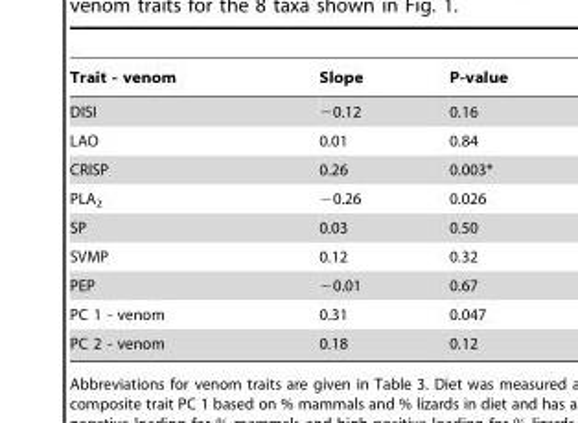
<table><thead><tr><td>Trait - venom</td><td>Slope</td><td>P-value</td></tr></thead><tbody><tr><td>DISI</td><td>−0.12</td><td>0.16</td></tr><tr><td>LAO</td><td>0.01</td><td>0.84</td></tr><tr><td>CRISP</td><td>0.26</td><td>0.003*</td></tr><tr><td>PLA<sub>2</sub></td><td>−0.26</td><td>0.026</td></tr><tr><td>SP</td><td>0.03</td><td>0.50</td></tr><tr><td>SVMP</td><td>0.12</td><td>0.32</td></tr><tr><td>PEP</td><td>−0.01</td><td>0.67</td></tr><tr><td>PC 1 - venom</td><td>0.31</td><td>0.047</td></tr><tr><td>PC 2 - venom</td><td>0.18</td><td>0.12</td></tr></tbody></table>